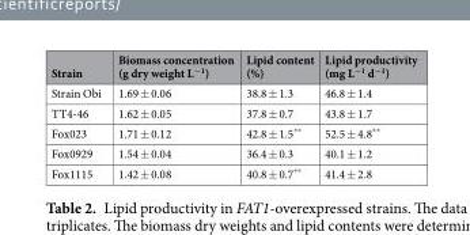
<table><thead><tr><td>Strain</td><td>Biomass concentration (g dry weight L<sup>−1</sup>)</td><td>Lipid content (%)</td><td>Lipid productivity (mg L<sup>−1</sup> d<sup>−1</sup>)</td></tr></thead><tbody><tr><td>Strain Obi</td><td>1.69 ± 0.06</td><td>38.8 ± 1.3</td><td>46.8 ± 1.4</td></tr><tr><td>TT4-46</td><td>1.62 ± 0.05</td><td>37.8 ± 0.7</td><td>43.8 ± 1.7</td></tr><tr><td>Fox023</td><td>1.71 ± 0.12</td><td>42.8 ± 1.5**</td><td>52.5 ± 4.8**</td></tr><tr><td>Fox0929</td><td>1.54 ± 0.04</td><td>36.4 ± 0.3</td><td>40.1 ± 1.2</td></tr><tr><td>Fox1115</td><td>1.42 ± 0.08</td><td>40.8 ± 0.7**</td><td>41.4 ± 2.8</td></tr></tbody></table>